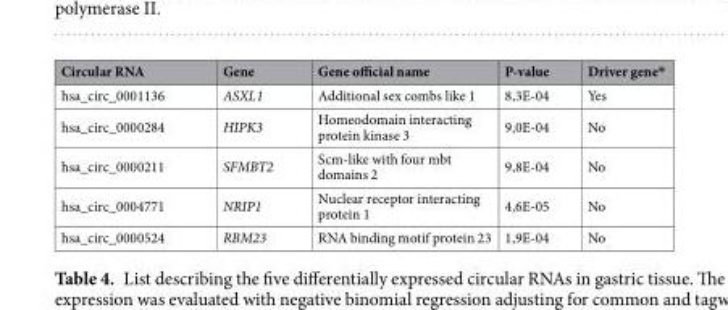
<table><thead><tr><td>Circular RNA</td><td>Gene</td><td>Gene official name</td><td>P-value</td><td>Driver gene*</td></tr></thead><tbody><tr><td>hsa_circ_0001136</td><td>ASXL1</td><td>Additional sex combs like 1</td><td>8,3E-04</td><td>Yes</td></tr><tr><td>hsa_circ_0000284</td><td>HIPK3</td><td>Homeodomain interacting protein kinase 3</td><td>9,0E-04</td><td>No</td></tr><tr><td>hsa_circ_0000211</td><td>SFMBT2</td><td>Scm-like with four mbt domains 2</td><td>9,8E-04</td><td>No</td></tr><tr><td>hsa_circ_0004771</td><td>NRIP1</td><td>Nuclear receptor interacting protein 1</td><td>4,6E-05</td><td>No</td></tr><tr><td>hsa_circ_0000524</td><td>RBM23</td><td>RNA binding motif protein 23</td><td>1,9E-04</td><td>No</td></tr></tbody></table>